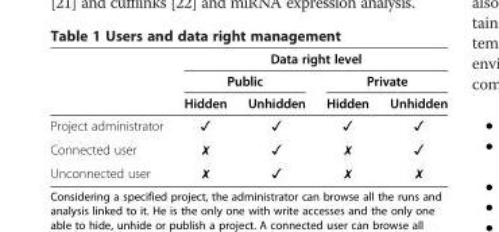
<table><thead><tr><td rowspan="3"></td><td colspan="4">Data right level</td></tr><tr><td colspan="2">Public</td><td colspan="2">Private</td></tr><tr><td>Hidden</td><td>Unhidden</td><td>Hidden</td><td>Unhidden</td></tr></thead><tbody><tr><td>Project administrator</td><td>✓</td><td>✓</td><td>✓</td><td>✓</td></tr><tr><td>Connected user</td><td>✗</td><td>✓</td><td>✗</td><td>✓</td></tr><tr><td>Unconnected user</td><td>✗</td><td>✓</td><td>✗</td><td>✗</td></tr></tbody></table>